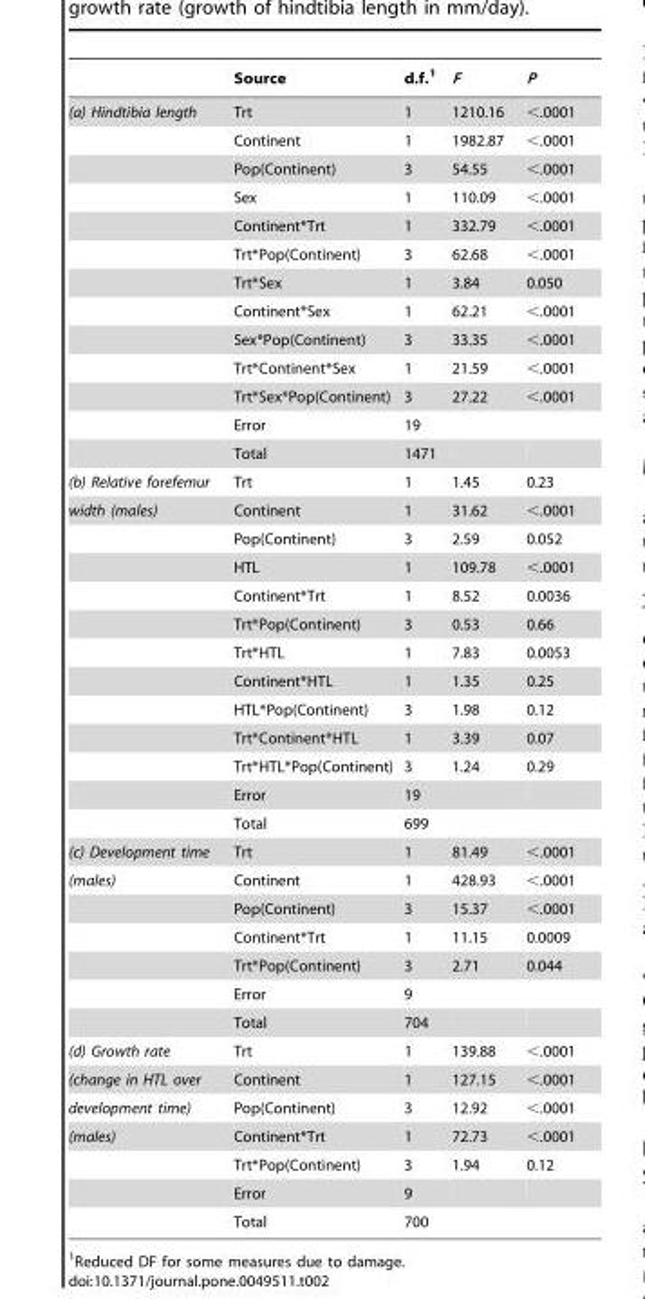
<table><thead><tr><td></td><td>Source</td><td>d.f.<sup>1</sup></td><td>F</td><td>P</td></tr></thead><tbody><tr><td rowspan="13">(a) Hindtibia length</td><td>Trt</td><td>1</td><td>1210.16</td><td>&lt;.0001</td></tr><tr><td>Continent</td><td>1</td><td>1982.87</td><td>&lt;.0001</td></tr><tr><td>Pop(Continent)</td><td>3</td><td>54.55</td><td>&lt;.0001</td></tr><tr><td>Sex</td><td>1</td><td>110.09</td><td>&lt;.0001</td></tr><tr><td>Continent*Trt</td><td>1</td><td>332.79</td><td>&lt;.0001</td></tr><tr><td>Trt*Pop(Continent)</td><td>3</td><td>62.68</td><td>&lt;.0001</td></tr><tr><td>Trt*Sex</td><td>1</td><td>3.84</td><td>0.050</td></tr><tr><td>Continent*Sex</td><td>1</td><td>62.21</td><td>&lt;.0001</td></tr><tr><td>Sex*Pop(Continent)</td><td>3</td><td>33.35</td><td>&lt;.0001</td></tr><tr><td>Trt*Continent*Sex</td><td>1</td><td>21.59</td><td>&lt;.0001</td></tr><tr><td>Trt*Sex*Pop(Continent)</td><td>3</td><td>27.22</td><td>&lt;.0001</td></tr><tr><td>Error</td><td>19</td><td></td><td></td></tr><tr><td>Total</td><td>1471</td><td></td><td></td></tr><tr><td>(b) Relative forefemur</td><td>Trt</td><td>1</td><td>1.45</td><td>0.23</td></tr><tr><td rowspan="12">width (males)</td><td>Continent</td><td>1</td><td>31.62</td><td>&lt;.0001</td></tr><tr><td>Pop(Continent)</td><td>3</td><td>2.59</td><td>0.052</td></tr><tr><td>HTL</td><td>1</td><td>109.78</td><td>&lt;.0001</td></tr><tr><td>Continent*Trt</td><td>1</td><td>8.52</td><td>0.0036</td></tr><tr><td>Trt*Pop(Continent)</td><td>3</td><td>0.53</td><td>0.66</td></tr><tr><td>Trt*HTL</td><td>1</td><td>7.83</td><td>0.0053</td></tr><tr><td>Continent*HTL</td><td>1</td><td>1.35</td><td>0.25</td></tr><tr><td>HTL*Pop(Continent)</td><td>3</td><td>1.98</td><td>0.12</td></tr><tr><td>Trt*Continent*HTL</td><td>1</td><td>3.39</td><td>0.07</td></tr><tr><td>Trt*HTL*Pop(Continent)</td><td>3</td><td>1.24</td><td>0.29</td></tr><tr><td>Error</td><td>19</td><td></td><td></td></tr><tr><td>Total</td><td>699</td><td></td><td></td></tr><tr><td>(c) Development time</td><td>Trt</td><td>1</td><td>81.49</td><td>&lt;.0001</td></tr><tr><td rowspan="6">(males)</td><td>Continent</td><td>1</td><td>428.93</td><td>&lt;.0001</td></tr><tr><td>Pop(Continent)</td><td>3</td><td>15.37</td><td>&lt;.0001</td></tr><tr><td>Continent*Trt</td><td>1</td><td>11.15</td><td>0.0009</td></tr><tr><td>Trt*Pop(Continent)</td><td>3</td><td>2.71</td><td>0.044</td></tr><tr><td>Error</td><td>9</td><td></td><td></td></tr><tr><td>Total</td><td>704</td><td></td><td></td></tr><tr><td>(d) Growth rate</td><td>Trt</td><td>1</td><td>139.88</td><td>&lt;.0001</td></tr><tr><td>(change in HTL over</td><td>Continent</td><td>1</td><td>127.15</td><td>&lt;.0001</td></tr><tr><td>development time)</td><td>Pop(Continent)</td><td>3</td><td>12.92</td><td>&lt;.0001</td></tr><tr><td rowspan="4">(males)</td><td>Continent*Trt</td><td>1</td><td>72.73</td><td>&lt;.0001</td></tr><tr><td>Trt*Pop(Continent)</td><td>3</td><td>1.94</td><td>0.12</td></tr><tr><td>Error</td><td>9</td><td></td><td></td></tr><tr><td>Total</td><td>700</td><td></td><td></td></tr></tbody></table>